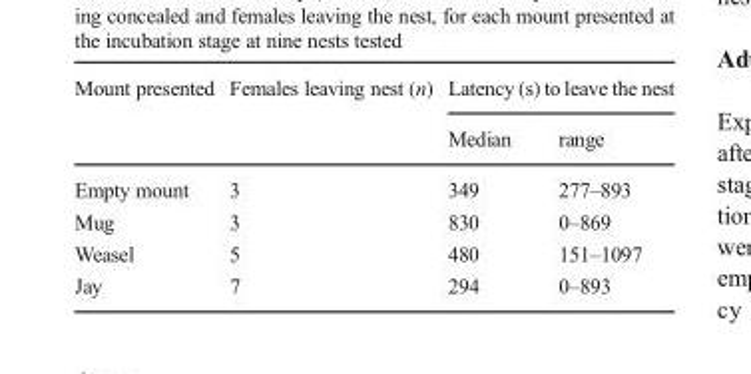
<table><thead><tr><td rowspan="2">Mount presented</td><td rowspan="2">Females leaving nest (n)</td><td colspan="2">Latency (s) to leave the nest</td></tr><tr><td>Median</td><td>range</td></tr></thead><tbody><tr><td>Empty mount</td><td>3</td><td>349</td><td>277–893</td></tr><tr><td>Mug</td><td>3</td><td>830</td><td>0–869</td></tr><tr><td>Weasel</td><td>5</td><td>480</td><td>151–1097</td></tr><tr><td>Jay</td><td>7</td><td>294</td><td>0–893</td></tr></tbody></table>